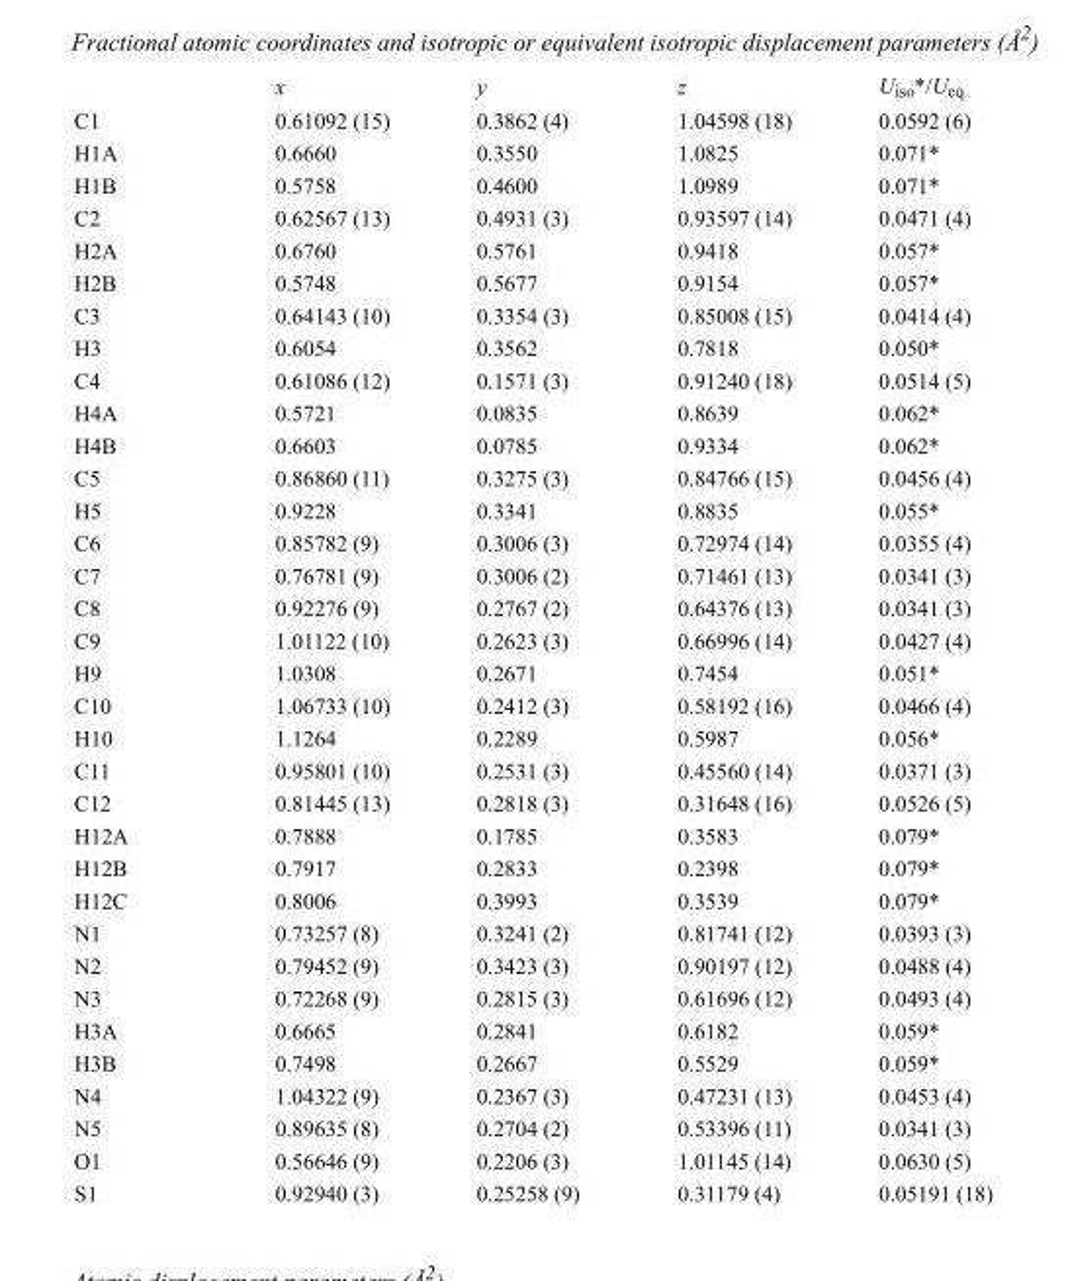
<table><thead><tr><td></td><td>x</td><td>y</td><td>z</td><td>U<sub>iso</sub>*/U<sub>eq</sub></td></tr></thead><tbody><tr><td>C1</td><td>0.61092 (15)</td><td>0.3862 (4)</td><td>1.04598 (18)</td><td>0.0592 (6)</td></tr><tr><td>H1A</td><td>0.6660</td><td>0.3550</td><td>1.0825</td><td>0.071*</td></tr><tr><td>H1B</td><td>0.5758</td><td>0.4600</td><td>1.0989</td><td>0.071*</td></tr><tr><td>C2</td><td>0.62567 (13)</td><td>0.4931 (3)</td><td>0.93597 (14)</td><td>0.0471 (4)</td></tr><tr><td>H2A</td><td>0.6760</td><td>0.5761</td><td>0.9418</td><td>0.057*</td></tr><tr><td>H2B</td><td>0.5748</td><td>0.5677</td><td>0.9154</td><td>0.057*</td></tr><tr><td>C3</td><td>0.64143 (10)</td><td>0.3354 (3)</td><td>0.85008 (15)</td><td>0.0414 (4)</td></tr><tr><td>H3</td><td>0.6054</td><td>0.3562</td><td>0.7818</td><td>0.050*</td></tr><tr><td>C4</td><td>0.61086 (12)</td><td>0.1571 (3)</td><td>0.91240 (18)</td><td>0.0514 (5)</td></tr><tr><td>H4A</td><td>0.5721</td><td>0.0835</td><td>0.8639</td><td>0.062*</td></tr><tr><td>H4B</td><td>0.6603</td><td>0.0785</td><td>0.9334</td><td>0.062*</td></tr><tr><td>C5</td><td>0.86860 (11)</td><td>0.3275 (3)</td><td>0.84766 (15)</td><td>0.0456 (4)</td></tr><tr><td>H5</td><td>0.9228</td><td>0.3341</td><td>0.8835</td><td>0.055*</td></tr><tr><td>C6</td><td>0.85782 (9)</td><td>0.3006 (3)</td><td>0.72974 (14)</td><td>0.0355 (4)</td></tr><tr><td>C7</td><td>0.76781 (9)</td><td>0.3006 (2)</td><td>0.71461 (13)</td><td>0.0341 (3)</td></tr><tr><td>C8</td><td>0.92276 (9)</td><td>0.2767 (2)</td><td>0.64376 (13)</td><td>0.0341 (3)</td></tr><tr><td>C9</td><td>1.01122 (10)</td><td>0.2623 (3)</td><td>0.66996 (14)</td><td>0.0427 (4)</td></tr><tr><td>H9</td><td>1.0308</td><td>0.2671</td><td>0.7454</td><td>0.051*</td></tr><tr><td>C10</td><td>1.06733 (10)</td><td>0.2412 (3)</td><td>0.58192 (16)</td><td>0.0466 (4)</td></tr><tr><td>H10</td><td>1.1264</td><td>0.2289</td><td>0.5987</td><td>0.056*</td></tr><tr><td>C11</td><td>0.95801 (10)</td><td>0.2531 (3)</td><td>0.45560 (14)</td><td>0.0371 (3)</td></tr><tr><td>C12</td><td>0.81445 (13)</td><td>0.2818 (3)</td><td>0.31648 (16)</td><td>0.0526 (5)</td></tr><tr><td>H12A</td><td>0.7888</td><td>0.1785</td><td>0.3583</td><td>0.079*</td></tr><tr><td>H12B</td><td>0.7917</td><td>0.2833</td><td>0.2398</td><td>0.079*</td></tr><tr><td>H12C</td><td>0.8006</td><td>0.3993</td><td>0.3539</td><td>0.079*</td></tr><tr><td>N1</td><td>0.73257 (8)</td><td>0.3241 (2)</td><td>0.81741 (12)</td><td>0.0393 (3)</td></tr><tr><td>N2</td><td>0.79452 (9)</td><td>0.3423 (3)</td><td>0.90197 (12)</td><td>0.0488 (4)</td></tr><tr><td>N3</td><td>0.72268 (9)</td><td>0.2815 (3)</td><td>0.61696 (12)</td><td>0.0493 (4)</td></tr><tr><td>H3A</td><td>0.6665</td><td>0.2841</td><td>0.6182</td><td>0.059*</td></tr><tr><td>H3B</td><td>0.7498</td><td>0.2667</td><td>0.5529</td><td>0.059*</td></tr><tr><td>N4</td><td>1.04322 (9)</td><td>0.2367 (3)</td><td>0.47231 (13)</td><td>0.0453 (4)</td></tr><tr><td>N5</td><td>0.89635 (8)</td><td>0.2704 (2)</td><td>0.53396 (11)</td><td>0.0341 (3)</td></tr><tr><td>O1</td><td>0.56646 (9)</td><td>0.2206 (3)</td><td>1.01145 (14)</td><td>0.0630 (5)</td></tr><tr><td>S1</td><td>0.92940 (3)</td><td>0.25258 (9)</td><td>0.31179 (4)</td><td>0.05191 (18)</td></tr></tbody></table>